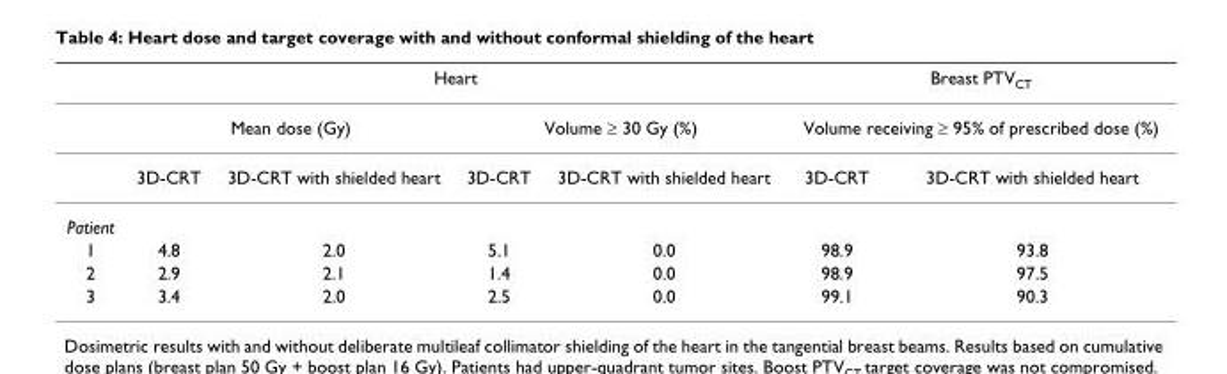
<table><thead><tr><td rowspan="3"></td><td colspan="4">Heart</td><td rowspan="2" colspan="2">Breast PTVCT Volume receiving ≥ 95% of prescribed dose (%)</td></tr><tr><td colspan="2">Mean dose (Gy)</td><td colspan="2">Volume ≥ 30 Gy (%)</td></tr><tr><td>3D-CRT</td><td>3D-CRT with shielded heart</td><td>3D-CRT</td><td>3D-CRT with shielded heart</td><td>3D-CRT</td><td>3D-CRT with shielded heart</td></tr></thead><tbody><tr><td colspan="7">Patient</td></tr><tr><td>1</td><td>4.8</td><td>2.0</td><td>5.1</td><td>0.0</td><td>98.9</td><td>93.8</td></tr><tr><td>2</td><td>2.9</td><td>2.1</td><td>1.4</td><td>0.0</td><td>98.9</td><td>97.5</td></tr><tr><td>3</td><td>3.4</td><td>2.0</td><td>2.5</td><td>0.0</td><td>99.1</td><td>90.3</td></tr></tbody></table>